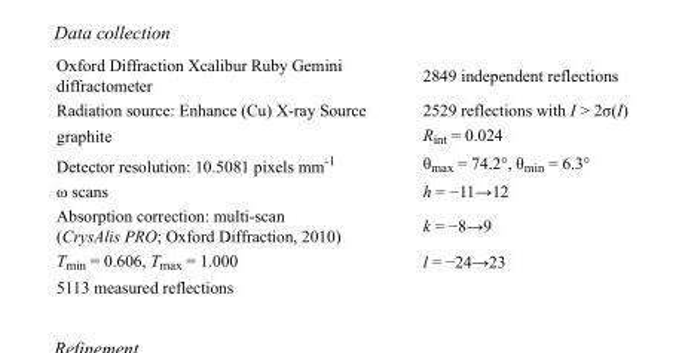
<table><tbody><tr><td>Oxford Diffraction Xcalibur Ruby Gemini diffractometer</td><td>2849 independent reflections</td></tr><tr><td>Radiation source: Enhance (Cu) X-ray Source</td><td>2529 reflections with I &gt; 2σ(I)</td></tr><tr><td>graphite</td><td>R<sub>int</sub> = 0.024</td></tr><tr><td>Detector resolution: 10.5081 pixels mm<sup>-1</sup></td><td>θ<sub>max</sub> = 74.2°, θ<sub>min</sub> = 6.3°</td></tr><tr><td>ω scans</td><td>h = −11→12</td></tr><tr><td>Absorption correction: multi-scan (CrysAlis PRO; Oxford Diffraction, 2010)</td><td>k = −8→9</td></tr><tr><td>T<sub>min</sub> = 0.606, T<sub>max</sub> = 1.000</td><td>l = −24→23</td></tr><tr><td>5113 measured reflections</td><td></td></tr></tbody></table>